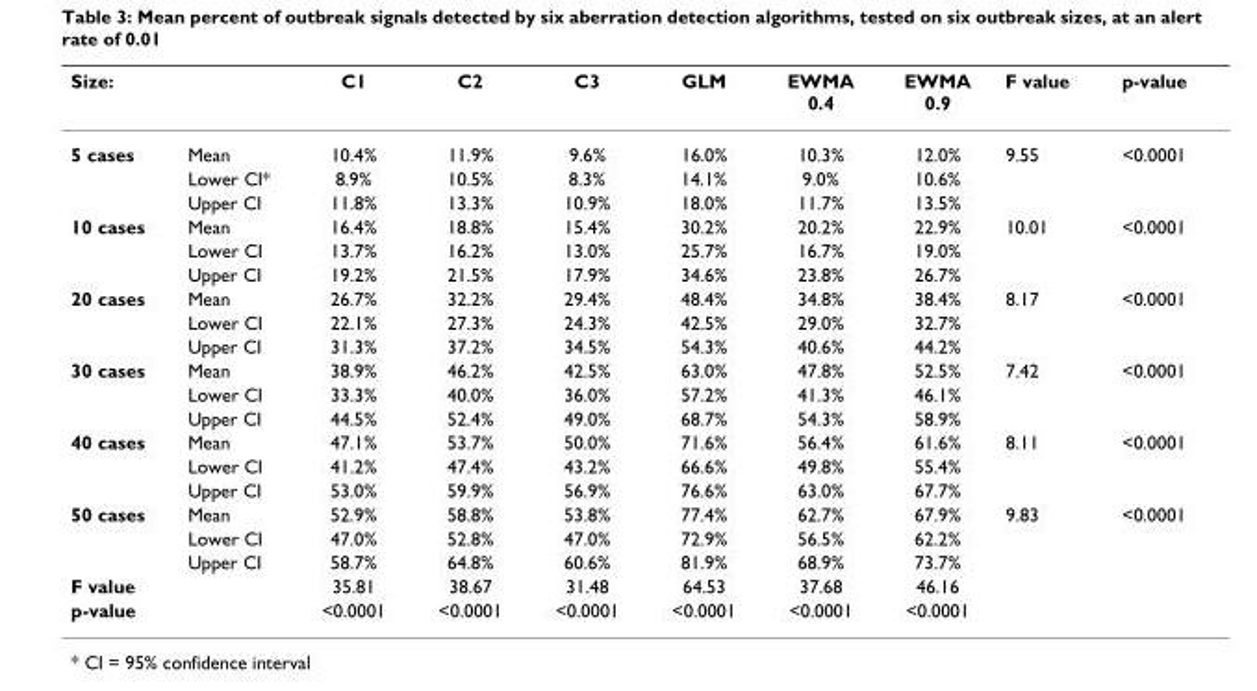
<table><thead><tr><td colspan="2">Size:</td><td rowspan="2">C1 10.4%</td><td rowspan="2">C2 11.9%</td><td rowspan="2">C3 9.6%</td><td rowspan="2">GLM 16.0%</td><td rowspan="2">EWMA 0.4 10.3%</td><td rowspan="2">EWMA 0.9 12.0%</td><td rowspan="2">F value 9.55</td><td rowspan="2">p-value &lt;0.0001</td></tr><tr><td>5 cases</td><td>Mean</td></tr></thead><tbody><tr><td></td><td>Lower CI*</td><td>8.9%</td><td>10.5%</td><td>8.3%</td><td>14.1%</td><td>9.0%</td><td>10.6%</td><td></td><td></td></tr><tr><td></td><td>Upper CI</td><td>11.8%</td><td>13.3%</td><td>10.9%</td><td>18.0%</td><td>11.7%</td><td>13.5%</td><td></td><td></td></tr><tr><td rowspan="3">10 cases</td><td>Mean</td><td>16.4%</td><td>18.8%</td><td>15.4%</td><td>30.2%</td><td>20.2%</td><td>22.9%</td><td>10.01</td><td>&lt;0.0001</td></tr><tr><td>Lower CI</td><td>13.7%</td><td>16.2%</td><td>13.0%</td><td>25.7%</td><td>16.7%</td><td>19.0%</td><td></td><td></td></tr><tr><td>Upper CI</td><td>19.2%</td><td>21.5%</td><td>17.9%</td><td>34.6%</td><td>23.8%</td><td>26.7%</td><td></td><td></td></tr><tr><td rowspan="3">20 cases</td><td>Mean</td><td>26.7%</td><td>32.2%</td><td>29.4%</td><td>48.4%</td><td>34.8%</td><td>38.4%</td><td>8.17</td><td>&lt;0.0001</td></tr><tr><td>Lower CI</td><td>22.1%</td><td>27.3%</td><td>24.3%</td><td>42.5%</td><td>29.0%</td><td>32.7%</td><td></td><td></td></tr><tr><td>Upper CI</td><td>31.3%</td><td>37.2%</td><td>34.5%</td><td>54.3%</td><td>40.6%</td><td>44.2%</td><td></td><td></td></tr><tr><td rowspan="3">30 cases</td><td>Mean</td><td>38.9%</td><td>46.2%</td><td>42.5%</td><td>63.0%</td><td>47.8%</td><td>52.5%</td><td>7.42</td><td>&lt;0.0001</td></tr><tr><td>Lower CI</td><td>33.3%</td><td>40.0%</td><td>36.0%</td><td>57.2%</td><td>41.3%</td><td>46.1%</td><td></td><td></td></tr><tr><td>Upper CI</td><td>44.5%</td><td>52.4%</td><td>49.0%</td><td>68.7%</td><td>54.3%</td><td>58.9%</td><td></td><td></td></tr><tr><td rowspan="3">40 cases</td><td>Mean</td><td>47.1%</td><td>53.7%</td><td>50.0%</td><td>71.6%</td><td>56.4%</td><td>61.6%</td><td>8.11</td><td>&lt;0.0001</td></tr><tr><td>Lower CI</td><td>41.2%</td><td>47.4%</td><td>43.2%</td><td>66.6%</td><td>49.8%</td><td>55.4%</td><td></td><td></td></tr><tr><td>Upper CI</td><td>53.0%</td><td>59.9%</td><td>56.9%</td><td>76.6%</td><td>63.0%</td><td>67.7%</td><td></td><td></td></tr><tr><td rowspan="3">50 cases</td><td>Mean</td><td>52.9%</td><td>58.8%</td><td>53.8%</td><td>77.4%</td><td>62.7%</td><td>67.9%</td><td>9.83</td><td>&lt;0.0001</td></tr><tr><td>Lower CI</td><td>47.0%</td><td>52.8%</td><td>47.0%</td><td>72.9%</td><td>56.5%</td><td>62.2%</td><td></td><td></td></tr><tr><td>Upper CI</td><td>58.7%</td><td>64.8%</td><td>60.6%</td><td>81.9%</td><td>68.9%</td><td>73.7%</td><td></td><td></td></tr><tr><td colspan="2">F value</td><td>35.81</td><td>38.67</td><td>31.48</td><td>64.53</td><td>37.68</td><td>46.16</td><td></td><td></td></tr><tr><td colspan="2">p-value</td><td>&lt;0.0001</td><td>&lt;0.0001</td><td>&lt;0.0001</td><td>&lt;0.0001</td><td>&lt;0.0001</td><td>&lt;0.0001</td><td></td><td></td></tr></tbody></table>